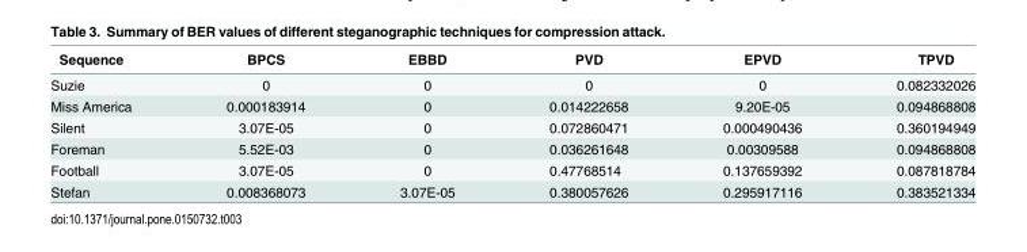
<table><thead><tr><td>Sequence</td><td>BPCS</td><td>EBBD</td><td>PVD</td><td>EPVD</td><td>TPVD</td></tr></thead><tbody><tr><td>Suzie</td><td>0</td><td>0</td><td>0</td><td>0</td><td>0.082332026</td></tr><tr><td>Miss America</td><td>0.000183914</td><td>0</td><td>0.014222658</td><td>9.20E-05</td><td>0.094868808</td></tr><tr><td>Silent</td><td>3.07E-05</td><td>0</td><td>0.072860471</td><td>0.000490436</td><td>0.360194949</td></tr><tr><td>Foreman</td><td>5.52E-03</td><td>0</td><td>0.036261648</td><td>0.00309588</td><td>0.094868808</td></tr><tr><td>Football</td><td>3.07E-05</td><td>0</td><td>0.47768514</td><td>0.137659392</td><td>0.087818784</td></tr><tr><td>Stefan</td><td>0.008368073</td><td>3.07E-05</td><td>0.380057626</td><td>0.295917116</td><td>0.383521334</td></tr></tbody></table>